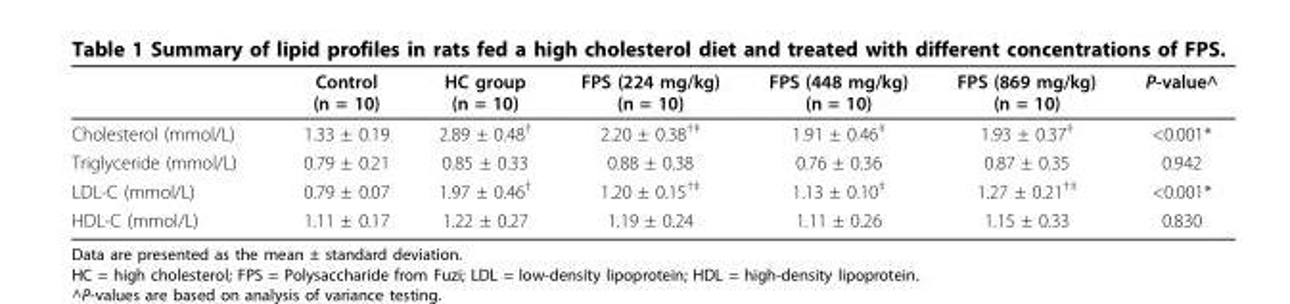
<table><thead><tr><td></td><td>Control (n = 10)</td><td>HC group (n = 10)</td><td>FPS (224 mg/kg) (n = 10)</td><td>FPS (448 mg/kg) (n = 10)</td><td>FPS (869 mg/kg) (n = 10)</td><td>P-value^</td></tr></thead><tbody><tr><td>Cholesterol (mmol/L)</td><td>1.33 ± 0.19</td><td>2.89 ± 0.48<sup>†</sup></td><td>2.20 ± 0.38<sup>†‡</sup></td><td>1.91 ± 0.46<sup>‡</sup></td><td>1.93 ± 0.37<sup>‡</sup></td><td>&lt;0.001*</td></tr><tr><td>Triglyceride (mmol/L)</td><td>0.79 ± 0.21</td><td>0.85 ± 0.33</td><td>0.88 ± 0.38</td><td>0.76 ± 0.36</td><td>0.87 ± 0.35</td><td>0.942</td></tr><tr><td>LDL-C (mmol/L)</td><td>0.79 ± 0.07</td><td>1.97 ± 0.46<sup>†</sup></td><td>1.20 ± 0.15<sup>†‡</sup></td><td>1.13 ± 0.10<sup>‡</sup></td><td>1.27 ± 0.21<sup>†‡</sup></td><td>&lt;0.001*</td></tr><tr><td>HDL-C (mmol/L)</td><td>1.11 ± 0.17</td><td>1.22 ± 0.27</td><td>1.19 ± 0.24</td><td>1.11 ± 0.26</td><td>1.15 ± 0.33</td><td>0.830</td></tr></tbody></table>